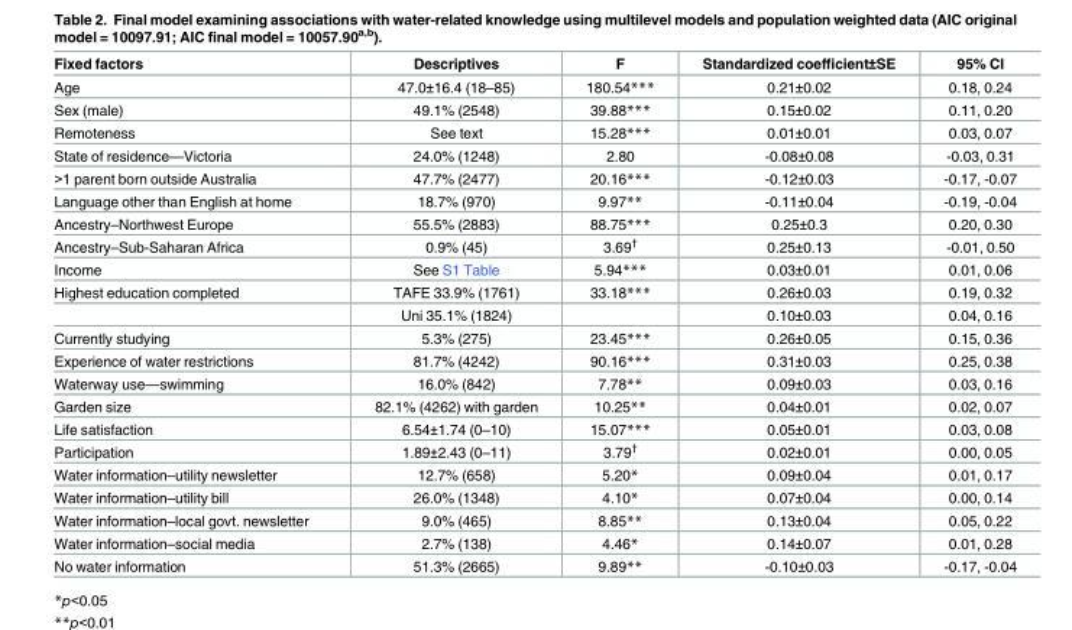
<table><thead><tr><td>Fixed factors</td><td>Descriptives</td><td>F</td><td>Standardized coefficient±SE</td><td>95% CI</td></tr></thead><tbody><tr><td>Age</td><td>47.0±16.4 (18–85)</td><td>180.54***</td><td>0.21±0.02</td><td>0.18, 0.24</td></tr><tr><td>Sex (male)</td><td>49.1% (2548)</td><td>39.88***</td><td>0.15±0.02</td><td>0.11, 0.20</td></tr><tr><td>Remoteness</td><td>See text</td><td>15.28***</td><td>0.01±0.01</td><td>0.03, 0.07</td></tr><tr><td>State of residence—Victoria</td><td>24.0% (1248)</td><td>2.80</td><td>-0.08±0.08</td><td>-0.03, 0.31</td></tr><tr><td>&gt;1 parent born outside Australia</td><td>47.7% (2477)</td><td>20.16***</td><td>-0.12±0.03</td><td>-0.17, -0.07</td></tr><tr><td>Language other than English at home</td><td>18.7% (970)</td><td>9.97**</td><td>-0.11±0.04</td><td>-0.19, -0.04</td></tr><tr><td>Ancestry–Northwest Europe</td><td>55.5% (2883)</td><td>88.75***</td><td>0.25±0.3</td><td>0.20, 0.30</td></tr><tr><td>Ancestry–Sub-Saharan Africa</td><td>0.9% (45)</td><td>3.69<sup>†</sup></td><td>0.25±0.13</td><td>-0.01, 0.50</td></tr><tr><td>Income</td><td>See S1 Table</td><td>5.94***</td><td>0.03±0.01</td><td>0.01, 0.06</td></tr><tr><td rowspan="2">Highest education completed</td><td>TAFE 33.9% (1761)</td><td>33.18***</td><td>0.26±0.03</td><td>0.19, 0.32</td></tr><tr><td>Uni 35.1% (1824)</td><td></td><td>0.10±0.03</td><td>0.04, 0.16</td></tr><tr><td>Currently studying</td><td>5.3% (275)</td><td>23.45***</td><td>0.26±0.05</td><td>0.15, 0.36</td></tr><tr><td>Experience of water restrictions</td><td>81.7% (4242)</td><td>90.16***</td><td>0.31±0.03</td><td>0.25, 0.38</td></tr><tr><td>Waterway use—swimming</td><td>16.0% (842)</td><td>7.78**</td><td>0.09±0.03</td><td>0.03, 0.16</td></tr><tr><td>Garden size</td><td>82.1% (4262) with garden</td><td>10.25**</td><td>0.04±0.01</td><td>0.02, 0.07</td></tr><tr><td>Life satisfaction</td><td>6.54±1.74 (0–10)</td><td>15.07***</td><td>0.05±0.01</td><td>0.03, 0.08</td></tr><tr><td>Participation</td><td>1.89±2.43 (0–11)</td><td>3.79<sup>†</sup></td><td>0.02±0.01</td><td>0.00, 0.05</td></tr><tr><td>Water information–utility newsletter</td><td>12.7% (658)</td><td>5.20*</td><td>0.09±0.04</td><td>0.01, 0.17</td></tr><tr><td>Water information–utility bill</td><td>26.0% (1348)</td><td>4.10*</td><td>0.07±0.04</td><td>0.00, 0.14</td></tr><tr><td>Water information–local govt. newsletter</td><td>9.0% (465)</td><td>8.85**</td><td>0.13±0.04</td><td>0.05, 0.22</td></tr><tr><td>Water information–social media</td><td>2.7% (138)</td><td>4.46*</td><td>0.14±0.07</td><td>0.01, 0.28</td></tr><tr><td>No water information</td><td>51.3% (2665)</td><td>9.89**</td><td>-0.10±0.03</td><td>-0.17, -0.04</td></tr></tbody></table>